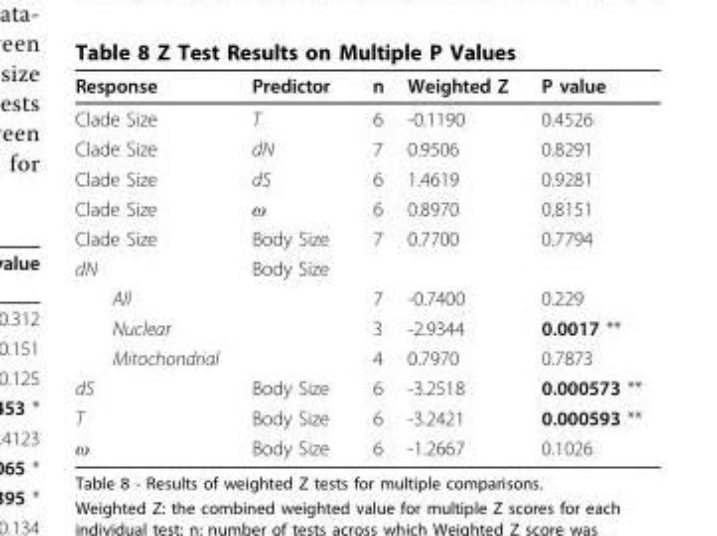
<table><thead><tr><td>Response</td><td>Predictor</td><td>n</td><td>Weighted Z</td><td>P value</td></tr></thead><tbody><tr><td>Clade Size</td><td>T</td><td>6</td><td>-0.1190</td><td>0.4526</td></tr><tr><td>Clade Size</td><td>dN</td><td>7</td><td>0.9506</td><td>0.8291</td></tr><tr><td>Clade Size</td><td>dS</td><td>6</td><td>1.4619</td><td>0.9281</td></tr><tr><td>Clade Size</td><td>ω</td><td>6</td><td>0.8970</td><td>0.8151</td></tr><tr><td>Clade Size</td><td>Body Size</td><td>7</td><td>0.7700</td><td>0.7794</td></tr><tr><td>dN</td><td>Body Size</td><td></td><td></td><td></td></tr><tr><td>All</td><td></td><td>7</td><td>-0.7400</td><td>0.229</td></tr><tr><td>Nuclear</td><td></td><td>3</td><td>-2.9344</td><td>0.0017 **</td></tr><tr><td>Mitochondrial</td><td></td><td>4</td><td>0.7970</td><td>0.7873</td></tr><tr><td>dS</td><td>Body Size</td><td>6</td><td>-3.2518</td><td>0.000573 **</td></tr><tr><td>T</td><td>Body Size</td><td>6</td><td>-3.2421</td><td>0.000593 **</td></tr><tr><td>ω</td><td>Body Size</td><td>6</td><td>-1.2667</td><td>0.1026</td></tr></tbody></table>